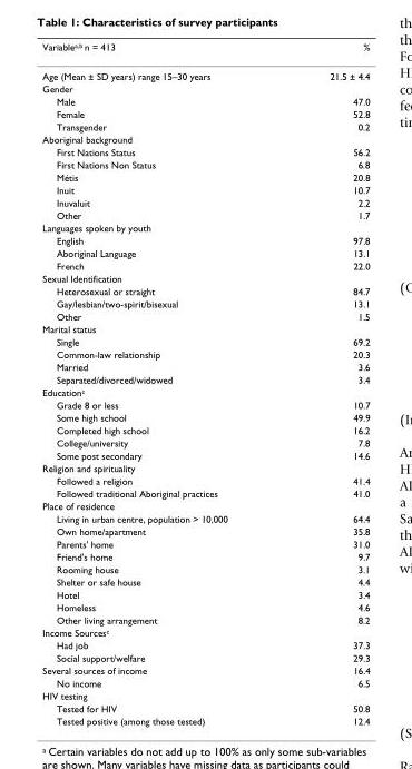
<table><thead><tr><td>Variable<sup>a,b</sup> n = 413</td><td>%</td></tr></thead><tbody><tr><td>Age (Mean ± SD years) range 15–30 years</td><td>21.5 ± 4.4</td></tr><tr><td colspan="2">Gender</td></tr><tr><td>Male</td><td>47.0</td></tr><tr><td>Female</td><td>52.8</td></tr><tr><td>Transgender</td><td>0.2</td></tr><tr><td colspan="2">Aboriginal background</td></tr><tr><td>First Nations Status</td><td>56.2</td></tr><tr><td>First Nations Non Status</td><td>6.8</td></tr><tr><td>Métis</td><td>20.8</td></tr><tr><td>Inuit</td><td>10.7</td></tr><tr><td>Inuvaluit</td><td>2.2</td></tr><tr><td>Other</td><td>1.7</td></tr><tr><td colspan="2">Languages spoken by youth</td></tr><tr><td>English</td><td>97.8</td></tr><tr><td>Aboriginal Language</td><td>13.1</td></tr><tr><td>French</td><td>22.0</td></tr><tr><td colspan="2">Sexual Identification</td></tr><tr><td>Heterosexual or straight</td><td>84.7</td></tr><tr><td>Gay/lesbian/two-spirit/bisexual</td><td>13.1</td></tr><tr><td>Other</td><td>1.5</td></tr><tr><td colspan="2">Marital status</td></tr><tr><td>Single</td><td>69.2</td></tr><tr><td>Common-law relationship</td><td>20.3</td></tr><tr><td>Married</td><td>3.6</td></tr><tr><td>Separated/divorced/widowed</td><td>3.4</td></tr><tr><td colspan="2">Education<sup>c</sup></td></tr><tr><td>Grade 8 or less</td><td>10.7</td></tr><tr><td>Some high school</td><td>49.9</td></tr><tr><td>Completed high school</td><td>16.2</td></tr><tr><td>College/university</td><td>7.8</td></tr><tr><td>Some post secondary</td><td>14.6</td></tr><tr><td colspan="2">Religion and spirituality</td></tr><tr><td>Followed a religion</td><td>41.4</td></tr><tr><td>Followed traditional Aboriginal practices</td><td>41.0</td></tr><tr><td colspan="2">Place of residence</td></tr><tr><td>Living in urban centre, population &gt; 10,000</td><td>64.4</td></tr><tr><td>Own home/apartment</td><td>35.8</td></tr><tr><td>Parents&#x27; home</td><td>31.0</td></tr><tr><td>Friend&#x27;s home</td><td>9.7</td></tr><tr><td>Rooming house</td><td>3.1</td></tr><tr><td>Shelter or safe house</td><td>4.4</td></tr><tr><td>Hotel</td><td>3.4</td></tr><tr><td>Homeless</td><td>4.6</td></tr><tr><td>Other living arrangement</td><td>8.2</td></tr><tr><td colspan="2">Income Sources<sup>c</sup></td></tr><tr><td>Had job</td><td>37.3</td></tr><tr><td>Social support/welfare</td><td>29.3</td></tr><tr><td>Several sources of income</td><td>16.4</td></tr><tr><td>No income</td><td>6.5</td></tr><tr><td colspan="2">HIV testing</td></tr><tr><td>Tested for HIV</td><td>50.8</td></tr><tr><td>Tested positive (among those tested)</td><td>12.4</td></tr></tbody></table>